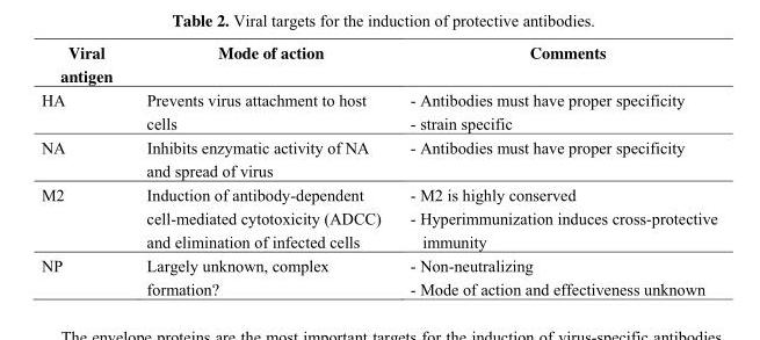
<table><thead><tr><td>Viral antigen</td><td>Mode of action</td><td>Comments</td></tr></thead><tbody><tr><td>HA</td><td>Prevents virus attachment to host cells</td><td>- Antibodies must have proper specificity - strain specific</td></tr><tr><td>NA</td><td>Inhibits enzymatic activity of NA and spread of virus</td><td>- Antibodies must have proper specificity</td></tr><tr><td>M2</td><td>Induction of antibody-dependent cell-mediated cytotoxicity (ADCC) and elimination of infected cells</td><td>- M2 is highly conserved - Hyperimmunization induces cross-protective immunity</td></tr><tr><td>NP</td><td>Largely unknown, complex formation?</td><td>- Non-neutralizing - Mode of action and effectiveness unknown</td></tr></tbody></table>